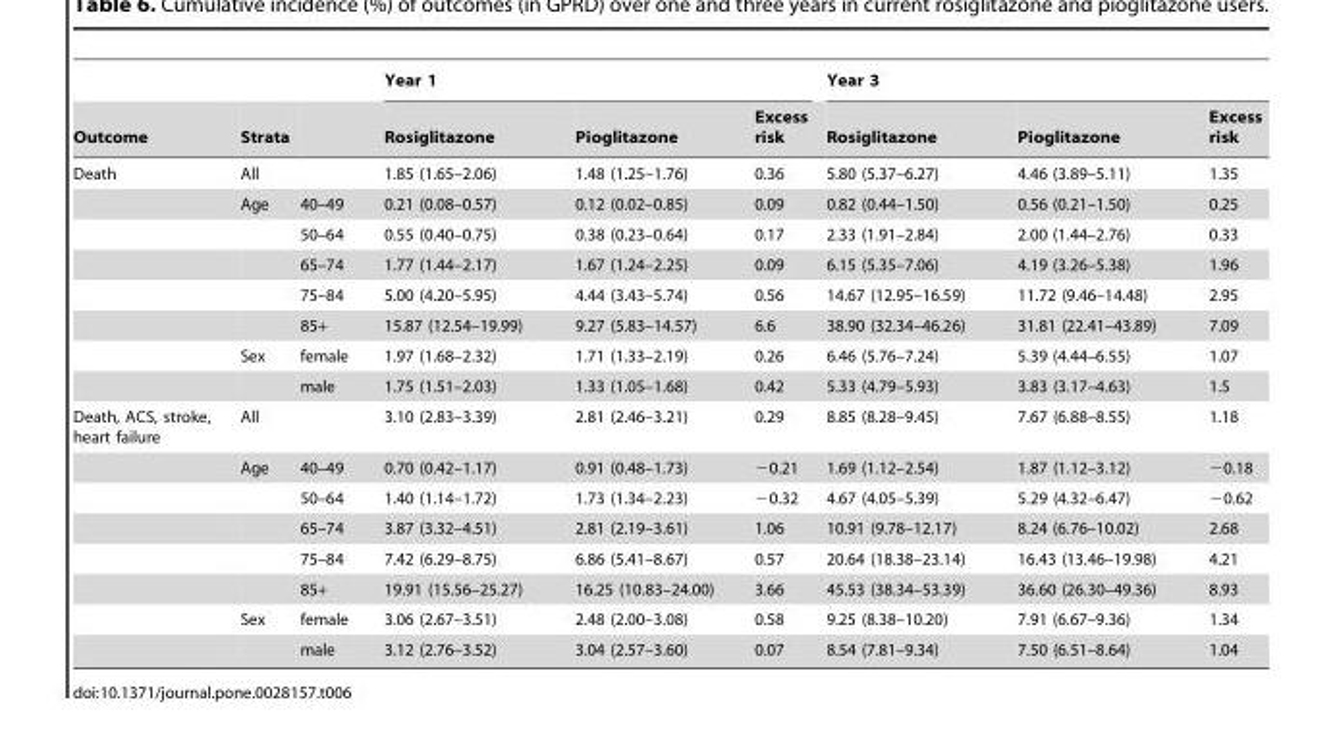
<table><thead><tr><td rowspan="2">Outcome</td><td rowspan="2">Strata</td><td rowspan="2"></td><td colspan="3">Year 1</td><td colspan="3">Year 3</td></tr><tr><td>Rosiglitazone</td><td>Pioglitazone</td><td>Excess risk</td><td>Rosiglitazone</td><td>Pioglitazone</td><td>Excess risk</td></tr></thead><tbody><tr><td rowspan="8">Death</td><td>All</td><td></td><td>1.85 (1.65–2.06)</td><td>1.48 (1.25–1.76)</td><td>0.36</td><td>5.80 (5.37–6.27)</td><td>4.46 (3.89–5.11)</td><td>1.35</td></tr><tr><td>Age</td><td>40–49</td><td>0.21 (0.08–0.57)</td><td>0.12 (0.02–0.85)</td><td>0.09</td><td>0.82 (0.44–1.50)</td><td>0.56 (0.21–1.50)</td><td>0.25</td></tr><tr><td></td><td>50–64</td><td>0.55 (0.40–0.75)</td><td>0.38 (0.23–0.64)</td><td>0.17</td><td>2.33 (1.91–2.84)</td><td>2.00 (1.44–2.76)</td><td>0.33</td></tr><tr><td></td><td>65–74</td><td>1.77 (1.44–2.17)</td><td>1.67 (1.24–2.25)</td><td>0.09</td><td>6.15 (5.35–7.06)</td><td>4.19 (3.26–5.38)</td><td>1.96</td></tr><tr><td></td><td>75–84</td><td>5.00 (4.20–5.95)</td><td>4.44 (3.43–5.74)</td><td>0.56</td><td>14.67 (12.95–16.59)</td><td>11.72 (9.46–14.48)</td><td>2.95</td></tr><tr><td></td><td>85+</td><td>15.87 (12.54–19.99)</td><td>9.27 (5.83–14.57)</td><td>6.6</td><td>38.90 (32.34–46.26)</td><td>31.81 (22.41–43.89)</td><td>7.09</td></tr><tr><td>Sex</td><td>female</td><td>1.97 (1.68–2.32)</td><td>1.71 (1.33–2.19)</td><td>0.26</td><td>6.46 (5.76–7.24)</td><td>5.39 (4.44–6.55)</td><td>1.07</td></tr><tr><td></td><td>male</td><td>1.75 (1.51–2.03)</td><td>1.33 (1.05–1.68)</td><td>0.42</td><td>5.33 (4.79–5.93)</td><td>3.83 (3.17–4.63)</td><td>1.5</td></tr><tr><td rowspan="8">Death, ACS, stroke, heart failure</td><td>All</td><td></td><td>3.10 (2.83–3.39)</td><td>2.81 (2.46–3.21)</td><td>0.29</td><td>8.85 (8.28–9.45)</td><td>7.67 (6.88–8.55)</td><td>1.18</td></tr><tr><td>Age</td><td>40–49</td><td>0.70 (0.42–1.17)</td><td>0.91 (0.48–1.73)</td><td>−0.21</td><td>1.69 (1.12–2.54)</td><td>1.87 (1.12–3.12)</td><td>−0.18</td></tr><tr><td></td><td>50–64</td><td>1.40 (1.14–1.72)</td><td>1.73 (1.34–2.23)</td><td>−0.32</td><td>4.67 (4.05–5.39)</td><td>5.29 (4.32–6.47)</td><td>−0.62</td></tr><tr><td></td><td>65–74</td><td>3.87 (3.32–4.51)</td><td>2.81 (2.19–3.61)</td><td>1.06</td><td>10.91 (9.78–12.17)</td><td>8.24 (6.76–10.02)</td><td>2.68</td></tr><tr><td></td><td>75–84</td><td>7.42 (6.29–8.75)</td><td>6.86 (5.41–8.67)</td><td>0.57</td><td>20.64 (18.38–23.14)</td><td>16.43 (13.46–19.98)</td><td>4.21</td></tr><tr><td></td><td>85+</td><td>19.91 (15.56–25.27)</td><td>16.25 (10.83–24.00)</td><td>3.66</td><td>45.53 (38.34–53.39)</td><td>36.60 (26.30–49.36)</td><td>8.93</td></tr><tr><td>Sex</td><td>female</td><td>3.06 (2.67–3.51)</td><td>2.48 (2.00–3.08)</td><td>0.58</td><td>9.25 (8.38–10.20)</td><td>7.91 (6.67–9.36)</td><td>1.34</td></tr><tr><td></td><td>male</td><td>3.12 (2.76–3.52)</td><td>3.04 (2.57–3.60)</td><td>0.07</td><td>8.54 (7.81–9.34)</td><td>7.50 (6.51–8.64)</td><td>1.04</td></tr></tbody></table>